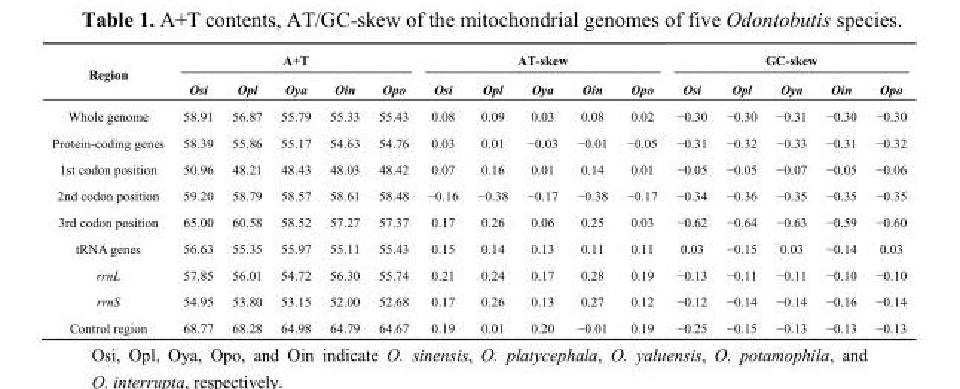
<table><thead><tr><td rowspan="2">Region</td><td colspan="5">A+T</td><td colspan="5">AT-skew</td><td colspan="5">GC-skew</td></tr><tr><td>Osi</td><td>Opl</td><td>Oya</td><td>Oin</td><td>Opo</td><td>Osi</td><td>Opl</td><td>Oya</td><td>Oin</td><td>Opo</td><td>Osi</td><td>Opl</td><td>Oya</td><td>Oin</td><td>Opo</td></tr></thead><tbody><tr><td>Whole genome</td><td>58.91</td><td>56.87</td><td>55.79</td><td>55.33</td><td>55.43</td><td>0.08</td><td>0.09</td><td>0.03</td><td>0.08</td><td>0.02</td><td>−0.30</td><td>−0.30</td><td>−0.31</td><td>−0.30</td><td>−0.30</td></tr><tr><td>Protein-coding genes</td><td>58.39</td><td>55.86</td><td>55.17</td><td>54.63</td><td>54.76</td><td>0.03</td><td>0.01</td><td>−0.03</td><td>−0.01</td><td>−0.05</td><td>−0.31</td><td>−0.32</td><td>−0.33</td><td>−0.31</td><td>−0.32</td></tr><tr><td>1st codon position</td><td>50.96</td><td>48.21</td><td>48.43</td><td>48.03</td><td>48.42</td><td>0.07</td><td>0.16</td><td>0.01</td><td>0.14</td><td>0.01</td><td>−0.05</td><td>−0.05</td><td>−0.07</td><td>−0.05</td><td>−0.06</td></tr><tr><td>2nd codon position</td><td>59.20</td><td>58.79</td><td>58.57</td><td>58.61</td><td>58.48</td><td>−0.16</td><td>−0.38</td><td>−0.17</td><td>−0.38</td><td>−0.17</td><td>−0.34</td><td>−0.36</td><td>−0.35</td><td>−0.35</td><td>−0.35</td></tr><tr><td>3rd codon position</td><td>65.00</td><td>60.58</td><td>58.52</td><td>57.27</td><td>57.37</td><td>0.17</td><td>0.26</td><td>0.06</td><td>0.25</td><td>0.03</td><td>−0.62</td><td>−0.64</td><td>−0.63</td><td>−0.59</td><td>−0.60</td></tr><tr><td>tRNA genes</td><td>56.63</td><td>55.35</td><td>55.97</td><td>55.11</td><td>55.43</td><td>0.15</td><td>0.14</td><td>0.13</td><td>0.11</td><td>0.11</td><td>0.03</td><td>−0.15</td><td>0.03</td><td>−0.14</td><td>0.03</td></tr><tr><td>rrnL</td><td>57.85</td><td>56.01</td><td>54.72</td><td>56.30</td><td>55.74</td><td>0.21</td><td>0.24</td><td>0.17</td><td>0.28</td><td>0.19</td><td>−0.13</td><td>−0.11</td><td>−0.11</td><td>−0.10</td><td>−0.10</td></tr><tr><td>rrnS</td><td>54.95</td><td>53.80</td><td>53.15</td><td>52.00</td><td>52.68</td><td>0.17</td><td>0.26</td><td>0.13</td><td>0.27</td><td>0.12</td><td>−0.12</td><td>−0.14</td><td>−0.14</td><td>−0.16</td><td>−0.14</td></tr><tr><td>Control region</td><td>68.77</td><td>68.28</td><td>64.98</td><td>64.79</td><td>64.67</td><td>0.19</td><td>0.01</td><td>0.20</td><td>−0.01</td><td>0.19</td><td>−0.25</td><td>−0.15</td><td>−0.13</td><td>−0.13</td><td>−0.13</td></tr></tbody></table>